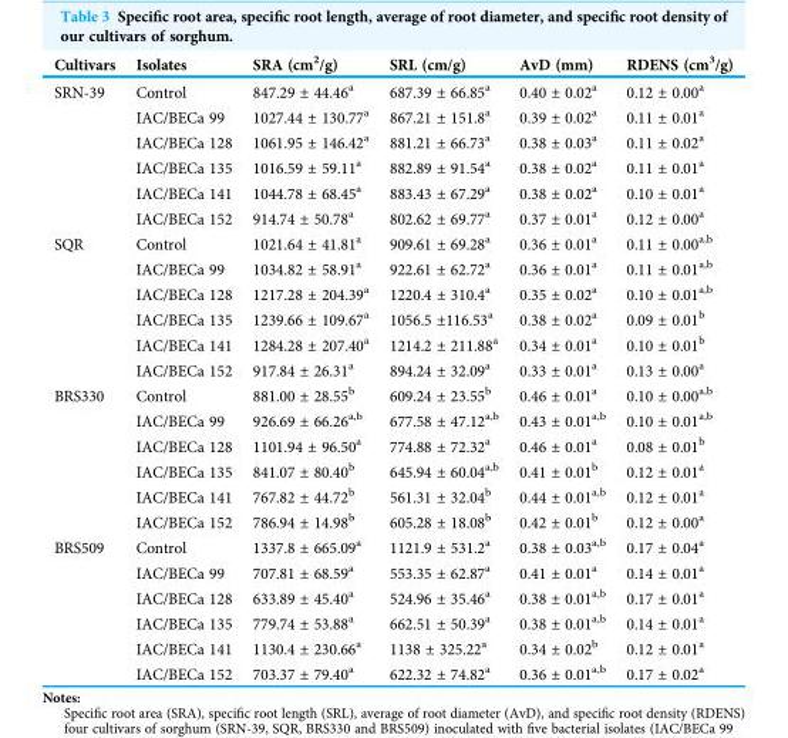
<table><thead><tr><td>Cultivars</td><td>Isolates</td><td>SRA (cm<sup>2</sup>/g)</td><td>SRL (cm/g)</td><td>AvD (mm)</td><td>RDENS (cm<sup>3</sup>/g)</td></tr></thead><tbody><tr><td rowspan="6">SRN-39</td><td>Control</td><td>847.29 ± 44.46<sup>a</sup></td><td>687.39 ± 66.85<sup>a</sup></td><td>0.40 ± 0.02<sup>a</sup></td><td>0.12 ± 0.00<sup>a</sup></td></tr><tr><td>IAC/BECa 99</td><td>1027.44 ± 130.77<sup>a</sup></td><td>867.21 ± 151.8<sup>a</sup></td><td>0.39 ± 0.02<sup>a</sup></td><td>0.11 ± 0.01<sup>a</sup></td></tr><tr><td>IAC/BECa 128</td><td>1061.95 ± 146.42<sup>a</sup></td><td>881.21 ± 66.73<sup>a</sup></td><td>0.38 ± 0.03<sup>a</sup></td><td>0.11 ± 0.02<sup>a</sup></td></tr><tr><td>IAC/BECa 135</td><td>1016.59 ± 59.11<sup>a</sup></td><td>882.89 ± 91.54<sup>a</sup></td><td>0.38 ± 0.02<sup>a</sup></td><td>0.11 ± 0.01<sup>a</sup></td></tr><tr><td>IAC/BECa 141</td><td>1044.78 ± 68.45<sup>a</sup></td><td>883.43 ± 67.29<sup>a</sup></td><td>0.38 ± 0.02<sup>a</sup></td><td>0.10 ± 0.01<sup>a</sup></td></tr><tr><td>IAC/BECa 152</td><td>914.74 ± 50.78<sup>a</sup></td><td>802.62 ± 69.77<sup>a</sup></td><td>0.37 ± 0.01<sup>a</sup></td><td>0.12 ± 0.00<sup>a</sup></td></tr><tr><td rowspan="6">SQR</td><td>Control</td><td>1021.64 ± 41.81<sup>a</sup></td><td>909.61 ± 69.28<sup>a</sup></td><td>0.36 ± 0.01<sup>a</sup></td><td>0.11 ± 0.00<sup>a,b</sup></td></tr><tr><td>IAC/BECa 99</td><td>1034.82 ± 58.91<sup>a</sup></td><td>922.61 ± 62.72<sup>a</sup></td><td>0.36 ± 0.01<sup>a</sup></td><td>0.11 ± 0.01<sup>a,b</sup></td></tr><tr><td>IAC/BECa 128</td><td>1217.28 ± 204.39<sup>a</sup></td><td>1220.4 ± 310.4<sup>a</sup></td><td>0.35 ± 0.02<sup>a</sup></td><td>0.10 ± 0.01<sup>a,b</sup></td></tr><tr><td>IAC/BECa 135</td><td>1239.66 ± 109.67<sup>a</sup></td><td>1056.5 ±116.53<sup>a</sup></td><td>0.38 ± 0.02<sup>a</sup></td><td>0.09 ± 0.01<sup>b</sup></td></tr><tr><td>IAC/BECa 141</td><td>1284.28 ± 207.40<sup>a</sup></td><td>1214.2 ± 211.88<sup>a</sup></td><td>0.34 ± 0.01<sup>a</sup></td><td>0.10 ± 0.01<sup>b</sup></td></tr><tr><td>IAC/BECa 152</td><td>917.84 ± 26.31<sup>a</sup></td><td>894.24 ± 32.09<sup>a</sup></td><td>0.33 ± 0.01<sup>a</sup></td><td>0.13 ± 0.00<sup>a</sup></td></tr><tr><td rowspan="6">BRS330</td><td>Control</td><td>881.00 ± 28.55<sup>b</sup></td><td>609.24 ± 23.55<sup>b</sup></td><td>0.46 ± 0.01<sup>a</sup></td><td>0.10 ± 0.00<sup>a,b</sup></td></tr><tr><td>IAC/BECa 99</td><td>926.69 ± 66.26<sup>a,b</sup></td><td>677.58 ± 47.12<sup>a,b</sup></td><td>0.43 ± 0.01<sup>a,b</sup></td><td>0.10 ± 0.01<sup>a,b</sup></td></tr><tr><td>IAC/BECa 128</td><td>1101.94 ± 96.50<sup>a</sup></td><td>774.88 ± 72.32<sup>a</sup></td><td>0.46 ± 0.01<sup>a</sup></td><td>0.08 ± 0.01<sup>b</sup></td></tr><tr><td>IAC/BECa 135</td><td>841.07 ± 80.40<sup>b</sup></td><td>645.94 ± 60.04<sup>a,b</sup></td><td>0.41 ± 0.01<sup>b</sup></td><td>0.12 ± 0.01<sup>a</sup></td></tr><tr><td>IAC/BECa 141</td><td>767.82 ± 44.72<sup>b</sup></td><td>561.31 ± 32.04<sup>b</sup></td><td>0.44 ± 0.01<sup>a,b</sup></td><td>0.12 ± 0.01<sup>a</sup></td></tr><tr><td>IAC/BECa 152</td><td>786.94 ± 14.98<sup>b</sup></td><td>605.28 ± 18.08<sup>b</sup></td><td>0.42 ± 0.01<sup>b</sup></td><td>0.12 ± 0.00<sup>a</sup></td></tr><tr><td rowspan="6">BRS509</td><td>Control</td><td>1337.8 ± 665.09<sup>a</sup></td><td>1121.9 ± 531.2<sup>a</sup></td><td>0.38 ± 0.03<sup>a,b</sup></td><td>0.17 ± 0.04<sup>a</sup></td></tr><tr><td>IAC/BECa 99</td><td>707.81 ± 68.59<sup>a</sup></td><td>553.35 ± 62.87<sup>a</sup></td><td>0.41 ± 0.01<sup>a</sup></td><td>0.14 ± 0.01<sup>a</sup></td></tr><tr><td>IAC/BECa 128</td><td>633.89 ± 45.40<sup>a</sup></td><td>524.96 ± 35.46<sup>a</sup></td><td>0.38 ± 0.01<sup>a,b</sup></td><td>0.17 ± 0.01<sup>a</sup></td></tr><tr><td>IAC/BECa 135</td><td>779.74 ± 53.88<sup>a</sup></td><td>662.51 ± 50.39<sup>a</sup></td><td>0.38 ± 0.01<sup>a,b</sup></td><td>0.14 ± 0.01<sup>a</sup></td></tr><tr><td>IAC/BECa 141</td><td>1130.4 ± 230.66<sup>a</sup></td><td>1138 ± 325.22<sup>a</sup></td><td>0.34 ± 0.02<sup>b</sup></td><td>0.12 ± 0.01<sup>a</sup></td></tr><tr><td>IAC/BECa 152</td><td>703.37 ± 79.40<sup>a</sup></td><td>622.32 ± 74.82<sup>a</sup></td><td>0.36 ± 0.01<sup>a,b</sup></td><td>0.17 ± 0.02<sup>a</sup></td></tr></tbody></table>